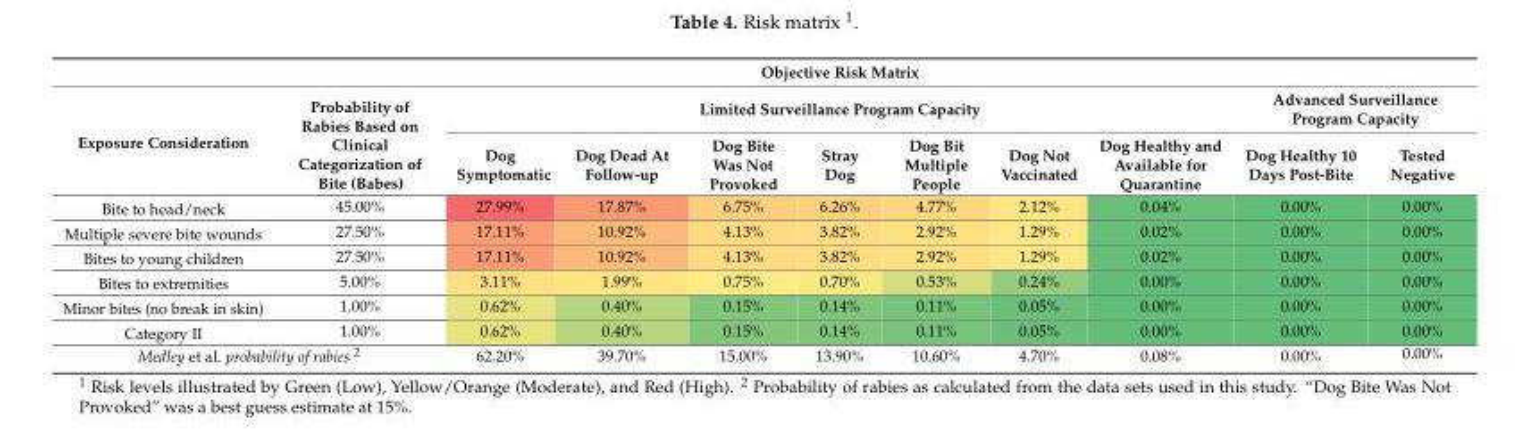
<table><thead><tr><td rowspan="3">Exposure Consideration</td><td rowspan="3">Probability of Rabies Based on Clinical Categorization of Bite (Babes)</td><td rowspan="2" colspan="7">Objective Risk Matrix Limited Surveillance Program Capacity</td><td></td><td></td></tr><tr><td colspan="2">Advanced Surveillance Program Capacity</td></tr><tr><td>Dog Symptomatic</td><td>Dog Dead At Follow-up</td><td>Dog Bite Was Not Provoked</td><td>Stray Dog</td><td>Dog Bit Multiple People</td><td>Dog Not Vaccinated</td><td>Dog Healthy and Available for Quarantine</td><td>Dog Healthy 10 Days Post-Bite</td><td>Tested Negative</td></tr></thead><tbody><tr><td>Bite to head/neck</td><td>45.00%</td><td>27.99%</td><td>17.87%</td><td>6.75%</td><td>6.26%</td><td>4.77%</td><td>2.12%</td><td>0.04%</td><td>0.00%</td><td>0.00%</td></tr><tr><td>Multiple severe bite wounds</td><td>27.50%</td><td>17.11%</td><td>10.92%</td><td>4.13%</td><td>3.82%</td><td>2.92%</td><td>1.29%</td><td>0.02%</td><td>0.00%</td><td>0.00%</td></tr><tr><td>Bites to young children</td><td>27.50%</td><td>17.11%</td><td>10.92%</td><td>4.13%</td><td>3.82%</td><td>2.92%</td><td>1.29%</td><td>0.02%</td><td>0.00%</td><td>0.00%</td></tr><tr><td>Bites to extremities</td><td>5.00%</td><td>3.11%</td><td>1.99%</td><td>0.75%</td><td>0.70%</td><td>0.53%</td><td>0.24%</td><td>0.00%</td><td>0.00%</td><td>0.00%</td></tr><tr><td>Minor bites (no break in skin)</td><td>1.00%</td><td>0.62%</td><td>0.40%</td><td>0.15%</td><td>0.14%</td><td>0.11%</td><td>0.05%</td><td>0.00%</td><td>0.00%</td><td>0.00%</td></tr><tr><td>Category II</td><td>1.00%</td><td>0.62%</td><td>0.40%</td><td>0.15%</td><td>0.14%</td><td>0.11%</td><td>0.05%</td><td>0.00%</td><td>0.00%</td><td>0.00%</td></tr><tr><td colspan="2">Medley et al. probability of rabies <sup>2</sup></td><td>62.20%</td><td>39.70%</td><td>15.00%</td><td>13.90%</td><td>10.60%</td><td>4.70%</td><td>0.08%</td><td>0.00%</td><td>0.00%</td></tr></tbody></table>